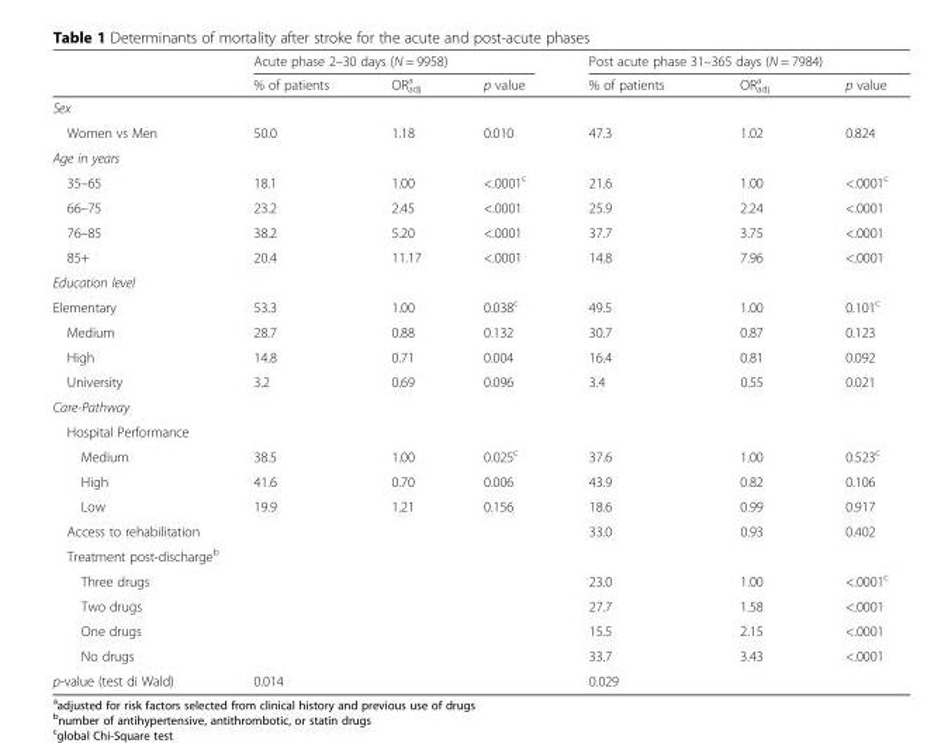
<table><thead><tr><td rowspan="2"></td><td colspan="3">Acute phase 2–30 days (N = 9958)</td><td colspan="3">Post acute phase 31–365 days (N = 7984)</td></tr><tr><td>% of patients</td><td>OR<sub>adj</sub> <sup>a</sup></td><td>p value</td><td>% of patients</td><td>OR<sub>adj</sub> <sup>a</sup></td><td>p value</td></tr></thead><tbody><tr><td colspan="7">Sex</td></tr><tr><td>Women vs Men</td><td>50.0</td><td>1.18</td><td>0.010</td><td>47.3</td><td>1.02</td><td>0.824</td></tr><tr><td colspan="7">Age in years</td></tr><tr><td>35–65</td><td>18.1</td><td>1.00</td><td>&lt;.0001<sup>c</sup></td><td>21.6</td><td>1.00</td><td>&lt;.0001<sup>c</sup></td></tr><tr><td>66–75</td><td>23.2</td><td>2.45</td><td>&lt;.0001</td><td>25.9</td><td>2.24</td><td>&lt;.0001</td></tr><tr><td>76–85</td><td>38.2</td><td>5.20</td><td>&lt;.0001</td><td>37.7</td><td>3.75</td><td>&lt;.0001</td></tr><tr><td>85+</td><td>20.4</td><td>11.17</td><td>&lt;.0001</td><td>14.8</td><td>7.96</td><td>&lt;.0001</td></tr><tr><td colspan="7">Education level</td></tr><tr><td>Elementary</td><td>53.3</td><td>1.00</td><td>0.038<sup>c</sup></td><td>49.5</td><td>1.00</td><td>0.101<sup>c</sup></td></tr><tr><td>Medium</td><td>28.7</td><td>0.88</td><td>0.132</td><td>30.7</td><td>0.87</td><td>0.123</td></tr><tr><td>High</td><td>14.8</td><td>0.71</td><td>0.004</td><td>16.4</td><td>0.81</td><td>0.092</td></tr><tr><td>University</td><td>3.2</td><td>0.69</td><td>0.096</td><td>3.4</td><td>0.55</td><td>0.021</td></tr><tr><td colspan="7">Care-Pathway</td></tr><tr><td colspan="7">Hospital Performance</td></tr><tr><td>Medium</td><td>38.5</td><td>1.00</td><td>0.025<sup>c</sup></td><td>37.6</td><td>1.00</td><td>0.523<sup>c</sup></td></tr><tr><td>High</td><td>41.6</td><td>0.70</td><td>0.006</td><td>43.9</td><td>0.82</td><td>0.106</td></tr><tr><td>Low</td><td>19.9</td><td>1.21</td><td>0.156</td><td>18.6</td><td>0.99</td><td>0.917</td></tr><tr><td>Access to rehabilitation</td><td></td><td></td><td></td><td>33.0</td><td>0.93</td><td>0.402</td></tr><tr><td colspan="7">Treatment post-discharge<sup>b</sup></td></tr><tr><td>Three drugs</td><td></td><td></td><td></td><td>23.0</td><td>1.00</td><td>&lt;.0001<sup>c</sup></td></tr><tr><td>Two drugs</td><td></td><td></td><td></td><td>27.7</td><td>1.58</td><td>&lt;.0001</td></tr><tr><td>One drugs</td><td></td><td></td><td></td><td>15.5</td><td>2.15</td><td>&lt;.0001</td></tr><tr><td>No drugs</td><td></td><td></td><td></td><td>33.7</td><td>3.43</td><td>&lt;.0001</td></tr><tr><td>p-value (test di Wald)</td><td colspan="3">0.014</td><td colspan="3">0.029</td></tr></tbody></table>